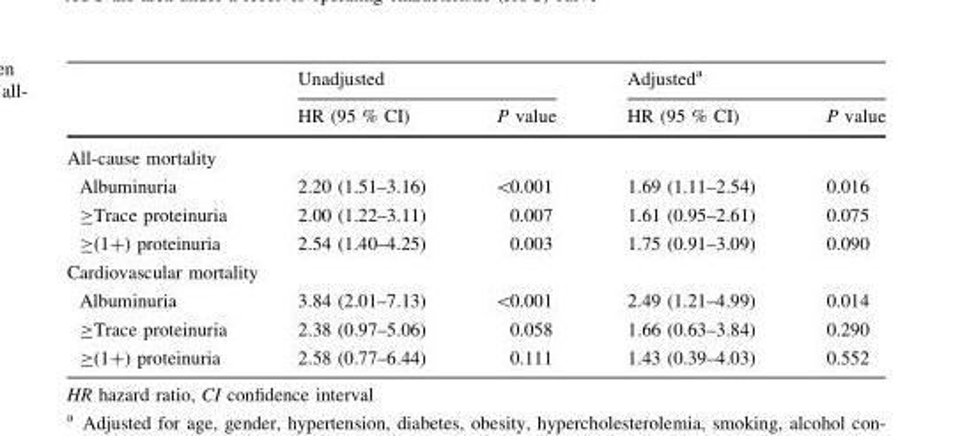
<table><thead><tr><td rowspan="2"></td><td colspan="2">Unadjusted</td><td colspan="2">Adjusted<sup>a</sup></td></tr><tr><td>HR (95 % CI)</td><td>P value</td><td>HR (95 % CI)</td><td>P value</td></tr></thead><tbody><tr><td colspan="5">All-cause mortality</td></tr><tr><td>Albuminuria</td><td>2.20 (1.51–3.16)</td><td>&lt;0.001</td><td>1.69 (1.11–2.54)</td><td>0.016</td></tr><tr><td>≥Trace proteinuria</td><td>2.00 (1.22–3.11)</td><td>0.007</td><td>1.61 (0.95–2.61)</td><td>0.075</td></tr><tr><td>≥(1+) proteinuria</td><td>2.54 (1.40–4.25)</td><td>0.003</td><td>1.75 (0.91–3.09)</td><td>0.090</td></tr><tr><td colspan="5">Cardiovascular mortality</td></tr><tr><td>Albuminuria</td><td>3.84 (2.01–7.13)</td><td>&lt;0.001</td><td>2.49 (1.21–4.99)</td><td>0.014</td></tr><tr><td>≥Trace proteinuria</td><td>2.38 (0.97–5.06)</td><td>0.058</td><td>1.66 (0.63–3.84)</td><td>0.290</td></tr><tr><td>≥(1+) proteinuria</td><td>2.58 (0.77–6.44)</td><td>0.111</td><td>1.43 (0.39–4.03)</td><td>0.552</td></tr></tbody></table>